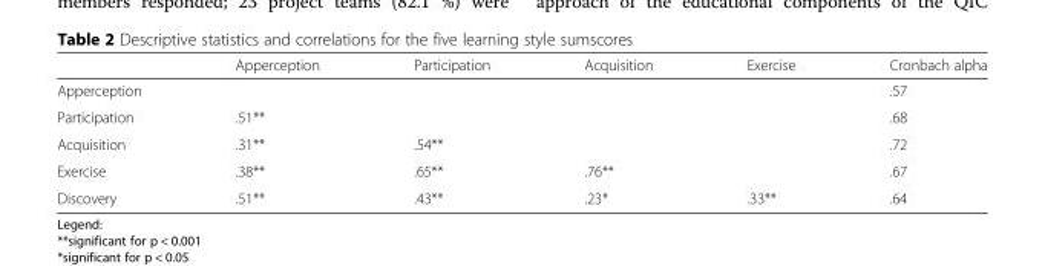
<table><thead><tr><td></td><td>Apperception</td><td>Participation</td><td>Acquisition</td><td>Exercise</td><td>Cronbach alpha</td></tr></thead><tbody><tr><td>Apperception</td><td></td><td></td><td></td><td></td><td>.57</td></tr><tr><td>Participation</td><td>.51**</td><td></td><td></td><td></td><td>.68</td></tr><tr><td>Acquisition</td><td>.31**</td><td>.54**</td><td></td><td></td><td>.72</td></tr><tr><td>Exercise</td><td>.38**</td><td>.65**</td><td>.76**</td><td></td><td>.67</td></tr><tr><td>Discovery</td><td>.51**</td><td>.43**</td><td>.23*</td><td>.33**</td><td>.64</td></tr></tbody></table>